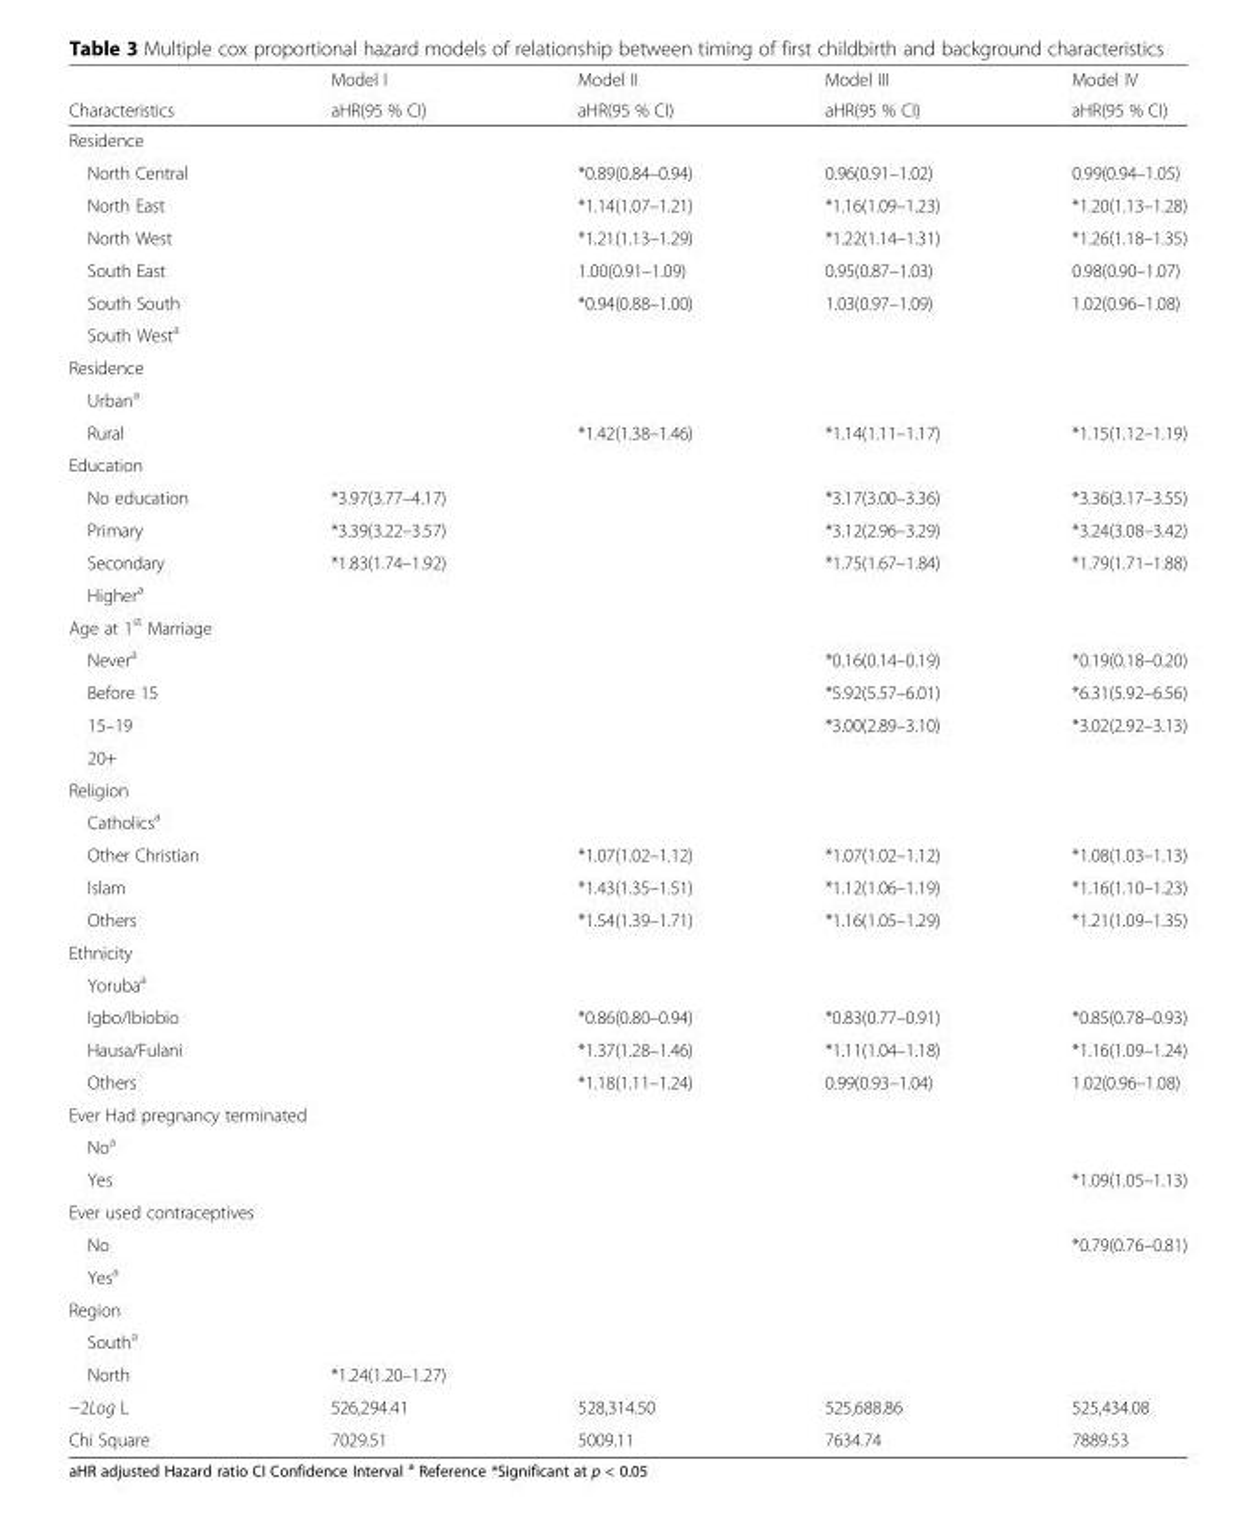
<table><thead><tr><td rowspan="2">Characteristics</td><td rowspan="2">Model I aHR(95 % CI)</td><td rowspan="2">Model II aHR(95 % CI)</td><td rowspan="2">Model III aHR(95 % CI)</td><td rowspan="2">Model IV aHR(95 % CI)</td></tr><tr></tr></thead><tbody><tr><td colspan="5">Residence</td></tr><tr><td>North Central</td><td></td><td>*0.89(0.84–0.94)</td><td>0.96(0.91–1.02)</td><td>0.99(0.94–1.05)</td></tr><tr><td>North East</td><td></td><td>*1.14(1.07–1.21)</td><td>*1.16(1.09–1.23)</td><td>*1.20(1.13–1.28)</td></tr><tr><td>North West</td><td></td><td>*1.21(1.13–1.29)</td><td>*1.22(1.14–1.31)</td><td>*1.26(1.18–1.35)</td></tr><tr><td>South East</td><td></td><td>1.00(0.91–1.09)</td><td>0.95(0.87–1.03)</td><td>0.98(0.90–1.07)</td></tr><tr><td>South South</td><td></td><td>*0.94(0.88–1.00)</td><td>1.03(0.97–1.09)</td><td>1.02(0.96–1.08)</td></tr><tr><td colspan="5">South West<sup>a</sup></td></tr><tr><td colspan="5">Residence</td></tr><tr><td colspan="5">Urban<sup>a</sup></td></tr><tr><td>Rural</td><td></td><td>*1.42(1.38–1.46)</td><td>*1.14(1.11–1.17)</td><td>*1.15(1.12–1.19)</td></tr><tr><td colspan="5">Education</td></tr><tr><td>No education</td><td>*3.97(3.77–4.17)</td><td></td><td>*3.17(3.00–3.36)</td><td>*3.36(3.17–3.55)</td></tr><tr><td>Primary</td><td>*3.39(3.22–3.57)</td><td></td><td>*3.12(2.96–3.29)</td><td>*3.24(3.08–3.42)</td></tr><tr><td>Secondary</td><td>*1.83(1.74–1.92)</td><td></td><td>*1.75(1.67–1.84)</td><td>*1.79(1.71–1.88)</td></tr><tr><td colspan="5">Higher<sup>a</sup></td></tr><tr><td colspan="5">Age at 1<sup>st</sup> Marriage</td></tr><tr><td>Never<sup>a</sup></td><td></td><td></td><td>*0.16(0.14–0.19)</td><td>*0.19(0.18–0.20)</td></tr><tr><td>Before 15</td><td></td><td></td><td>*5.92(5.57–6.01)</td><td>*6.31(5.92–6.56)</td></tr><tr><td>15–19</td><td></td><td></td><td>*3.00(2.89–3.10)</td><td>*3.02(2.92–3.13)</td></tr><tr><td colspan="5">20+</td></tr><tr><td colspan="5">Religion</td></tr><tr><td colspan="5">Catholics<sup>a</sup></td></tr><tr><td>Other Christian</td><td></td><td>*1.07(1.02–1.12)</td><td>*1.07(1.02–1.12)</td><td>*1.08(1.03–1.13)</td></tr><tr><td>Islam</td><td></td><td>*1.43(1.35–1.51)</td><td>*1.12(1.06–1.19)</td><td>*1.16(1.10–1.23)</td></tr><tr><td>Others</td><td></td><td>*1.54(1.39–1.71)</td><td>*1.16(1.05–1.29)</td><td>*1.21(1.09–1.35)</td></tr><tr><td colspan="5">Ethnicity</td></tr><tr><td colspan="5">Yoruba<sup>a</sup></td></tr><tr><td>Igbo/Ibiobio</td><td></td><td>*0.86(0.80–0.94)</td><td>*0.83(0.77–0.91)</td><td>*0.85(0.78–0.93)</td></tr><tr><td>Hausa/Fulani</td><td></td><td>*1.37(1.28–1.46)</td><td>*1.11(1.04–1.18)</td><td>*1.16(1.09–1.24)</td></tr><tr><td>Others</td><td></td><td>*1.18(1.11–1.24)</td><td>0.99(0.93–1.04)</td><td>1.02(0.96–1.08)</td></tr><tr><td colspan="5">Ever Had pregnancy terminated</td></tr><tr><td colspan="5">No<sup>a</sup></td></tr><tr><td>Yes</td><td></td><td></td><td></td><td>*1.09(1.05–1.13)</td></tr><tr><td colspan="5">Ever used contraceptives</td></tr><tr><td>No</td><td></td><td></td><td></td><td>*0.79(0.76–0.81)</td></tr><tr><td colspan="5">Yes<sup>a</sup></td></tr><tr><td colspan="5">Region</td></tr><tr><td colspan="5">South<sup>a</sup></td></tr><tr><td>North</td><td>*1.24(1.20–1.27)</td><td></td><td></td><td></td></tr><tr><td>−2Log L</td><td>526,294.41</td><td>528,314.50</td><td>525,688.86</td><td>525,434.08</td></tr><tr><td>Chi Square</td><td>7029.51</td><td>5009.11</td><td>7634.74</td><td>7889.53</td></tr></tbody></table>